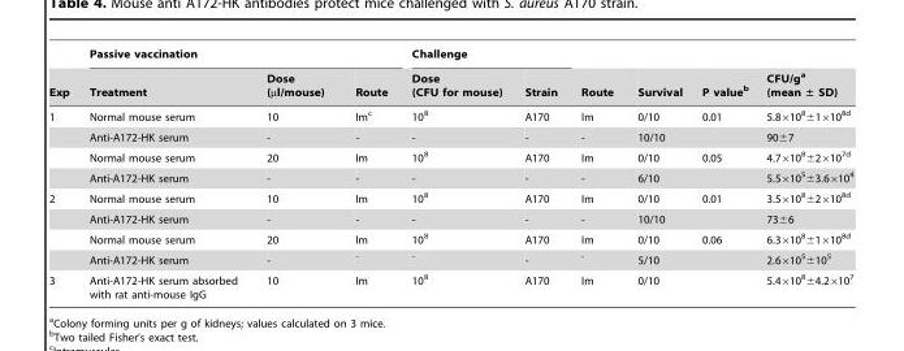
<table><thead><tr><td rowspan="2">Exp</td><td colspan="3">Passive vaccination</td><td colspan="2">Challenge</td><td rowspan="2">Route</td><td rowspan="2">Survival</td><td rowspan="2">P value<sup>b</sup></td><td rowspan="2">CFU/g<sup>a</sup> (mean ± SD)</td></tr><tr><td>Treatment</td><td>Dose (µl/mouse)</td><td>Route</td><td>Dose (CFU for mouse)</td><td>Strain</td></tr></thead><tbody><tr><td rowspan="4">1</td><td>Normal mouse serum</td><td>10</td><td>Im<sup>c</sup></td><td>10<sup>8</sup></td><td>A170</td><td>Im</td><td>0/10</td><td>0.01</td><td>5.8×10<sup>8</sup>±1×10<sup>8</sup>d</td></tr><tr><td>Anti-A172-HK serum</td><td>-</td><td>-</td><td>-</td><td>-</td><td>-</td><td>10/10</td><td></td><td>90±7</td></tr><tr><td>Normal mouse serum</td><td>20</td><td>Im</td><td>10<sup>8</sup></td><td>A170</td><td>Im</td><td>0/10</td><td>0.05</td><td>4.7×10<sup>8</sup>±2×10<sup>7</sup>d</td></tr><tr><td>Anti-A172-HK serum</td><td>-</td><td>-</td><td>-</td><td>-</td><td>-</td><td>6/10</td><td></td><td>5.5×10<sup>5</sup>±3.6×10<sup>4</sup></td></tr><tr><td rowspan="4">2</td><td>Normal mouse serum</td><td>10</td><td>Im</td><td>10<sup>8</sup></td><td>A170</td><td>Im</td><td>0/10</td><td>0.01</td><td>3.5×10<sup>8</sup>±2×10<sup>8</sup>d</td></tr><tr><td>Anti-A172-HK serum</td><td>-</td><td>-</td><td>-</td><td>-</td><td>-</td><td>10/10</td><td></td><td>73±6</td></tr><tr><td>Normal mouse serum</td><td>20</td><td>Im</td><td>10<sup>8</sup></td><td>A170</td><td>Im</td><td>0/10</td><td>0.06</td><td>6.3×10<sup>8</sup>±1×10<sup>8</sup>d</td></tr><tr><td>Anti-A172-HK serum</td><td>-</td><td><sup>-</sup></td><td><sup>-</sup></td><td>-</td><td><sup>-</sup></td><td>5/10</td><td></td><td>2.6×10<sup>5</sup>±10<sup>5</sup></td></tr><tr><td>3</td><td>Anti-A172-HK serum absorbed with rat anti-mouse IgG</td><td>10</td><td>Im</td><td>10<sup>8</sup></td><td>A170</td><td>Im</td><td>0/10</td><td></td><td>5.4×10<sup>8</sup>±4.2×10<sup>7</sup></td></tr></tbody></table>